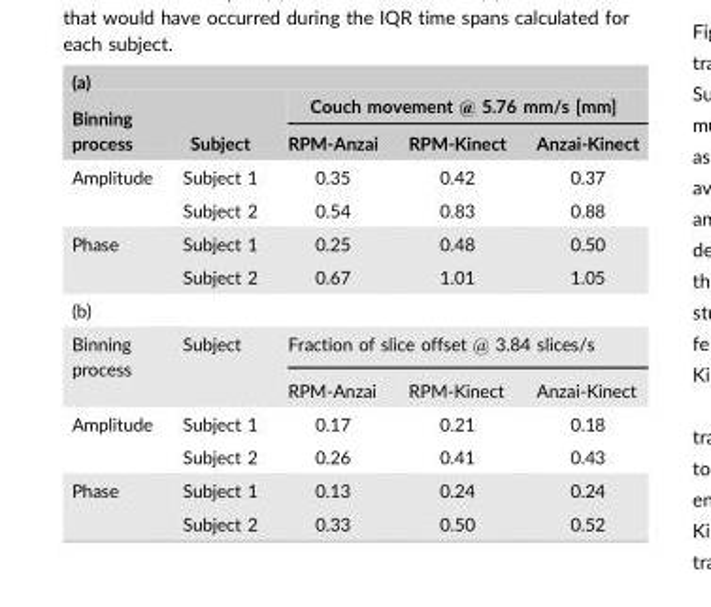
<table><thead><tr><td colspan="5">(a)</td></tr><tr><td rowspan="2">Binning process</td><td rowspan="2">Subject</td><td colspan="3">Couch movement @ 5.76 mm/s [mm]</td></tr><tr><td>RPM-Anzai</td><td>RPM-Kinect</td><td>Anzai-Kinect</td></tr></thead><tbody><tr><td rowspan="2">Amplitude</td><td>Subject 1</td><td>0.35</td><td>0.42</td><td>0.37</td></tr><tr><td>Subject 2</td><td>0.54</td><td>0.83</td><td>0.88</td></tr><tr><td rowspan="2">Phase</td><td>Subject 1</td><td>0.25</td><td>0.48</td><td>0.50</td></tr><tr><td>Subject 2</td><td>0.67</td><td>1.01</td><td>1.05</td></tr><tr><td colspan="5">(b)</td></tr><tr><td rowspan="2">Binning process</td><td rowspan="2">Subject</td><td colspan="3">Fraction of slice offset @ 3.84 slices/s</td></tr><tr><td>RPM-Anzai</td><td>RPM-Kinect</td><td>Anzai-Kinect</td></tr><tr><td rowspan="2">Amplitude</td><td>Subject 1</td><td>0.17</td><td>0.21</td><td>0.18</td></tr><tr><td>Subject 2</td><td>0.26</td><td>0.41</td><td>0.43</td></tr><tr><td rowspan="2">Phase</td><td>Subject 1</td><td>0.13</td><td>0.24</td><td>0.24</td></tr><tr><td>Subject 2</td><td>0.33</td><td>0.50</td><td>0.52</td></tr></tbody></table>